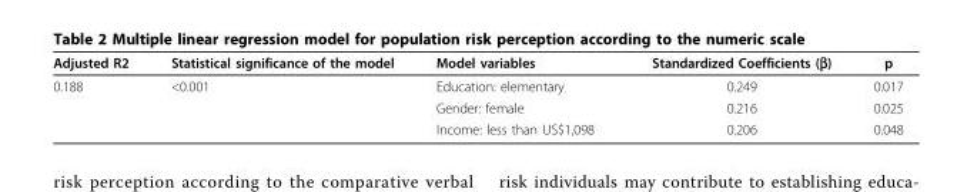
<table><thead><tr><td>Adjusted R2</td><td>Statistical significance of the model</td><td>Model variables</td><td>Standardized Coefficients (β)</td><td>p</td></tr></thead><tbody><tr><td rowspan="3">0.188</td><td>&lt;0.001</td><td>Education: elementary</td><td>0.249</td><td>0.017</td></tr><tr><td></td><td>Gender: female</td><td>0.216</td><td>0.025</td></tr><tr><td></td><td>Income: less than US$1,098</td><td>0.206</td><td>0.048</td></tr></tbody></table>